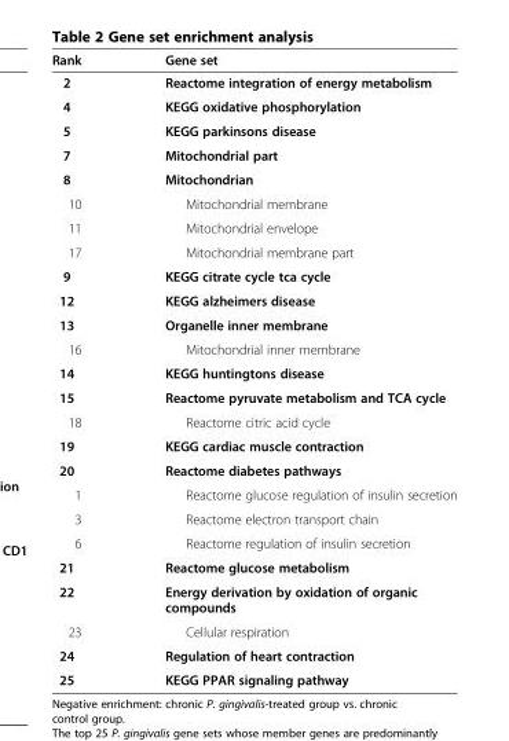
<table><thead><tr><td>Rank</td><td>Gene set</td></tr></thead><tbody><tr><td>2</td><td>Reactome integration of energy metabolism</td></tr><tr><td>4</td><td>KEGG oxidative phosphorylation</td></tr><tr><td>5</td><td>KEGG parkinsons disease</td></tr><tr><td>7</td><td>Mitochondrial part</td></tr><tr><td>8</td><td>Mitochondrian</td></tr><tr><td>10</td><td>Mitochondrial membrane</td></tr><tr><td>11</td><td>Mitochondrial envelope</td></tr><tr><td>17</td><td>Mitochondrial membrane part</td></tr><tr><td>9</td><td>KEGG citrate cycle tca cycle</td></tr><tr><td>12</td><td>KEGG alzheimers disease</td></tr><tr><td>13</td><td>Organelle inner membrane</td></tr><tr><td>16</td><td>Mitochondrial inner membrane</td></tr><tr><td>14</td><td>KEGG huntingtons disease</td></tr><tr><td>15</td><td>Reactome pyruvate metabolism and TCA cycle</td></tr><tr><td>18</td><td>Reactome citric acid cycle</td></tr><tr><td>19</td><td>KEGG cardiac muscle contraction</td></tr><tr><td>20</td><td>Reactome diabetes pathways</td></tr><tr><td>1</td><td>Reactome glucose regulation of insulin secretion</td></tr><tr><td>3</td><td>Reactome electron transport chain</td></tr><tr><td>6</td><td>Reactome regulation of insulin secretion</td></tr><tr><td>21</td><td>Reactome glucose metabolism</td></tr><tr><td>22</td><td>Energy derivation by oxidation of organic compounds</td></tr><tr><td>23</td><td>Cellular respiration</td></tr><tr><td>24</td><td>Regulation of heart contraction</td></tr><tr><td>25</td><td>KEGG PPAR signaling pathway</td></tr></tbody></table>